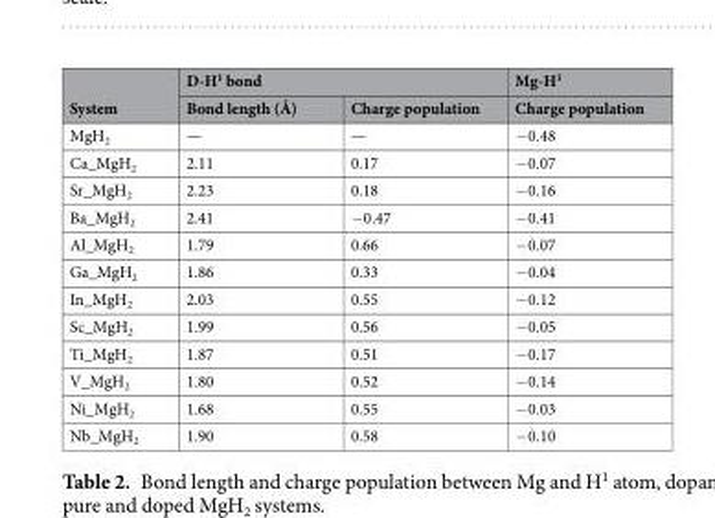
<table><thead><tr><td rowspan="2">System</td><td colspan="2">D-H<sup>1</sup> bond</td><td rowspan="2">Mg-H<sup>1</sup> Charge population</td></tr><tr><td>Bond length (Å)</td><td>Charge population</td></tr></thead><tbody><tr><td>MgH<sub>2</sub></td><td>—</td><td>—</td><td>−0.48</td></tr><tr><td>Ca_MgH<sub>2</sub></td><td>2.11</td><td>0.17</td><td>−0.07</td></tr><tr><td>Sr_MgH<sub>2</sub></td><td>2.23</td><td>0.18</td><td>−0.16</td></tr><tr><td>Ba_MgH<sub>2</sub></td><td>2.41</td><td>−0.47</td><td>−0.41</td></tr><tr><td>Al_MgH<sub>2</sub></td><td>1.79</td><td>0.66</td><td>−0.07</td></tr><tr><td>Ga_MgH<sub>2</sub></td><td>1.86</td><td>0.33</td><td>−0.04</td></tr><tr><td>In_MgH<sub>2</sub></td><td>2.03</td><td>0.55</td><td>−0.12</td></tr><tr><td>Sc_MgH<sub>2</sub></td><td>1.99</td><td>0.56</td><td>−0.05</td></tr><tr><td>Ti_MgH<sub>2</sub></td><td>1.87</td><td>0.51</td><td>−0.17</td></tr><tr><td>V_MgH<sub>2</sub></td><td>1.80</td><td>0.52</td><td>−0.14</td></tr><tr><td>Ni_MgH<sub>2</sub></td><td>1.68</td><td>0.55</td><td>−0.03</td></tr><tr><td>Nb_MgH<sub>2</sub></td><td>1.90</td><td>0.58</td><td>−0.10</td></tr></tbody></table>